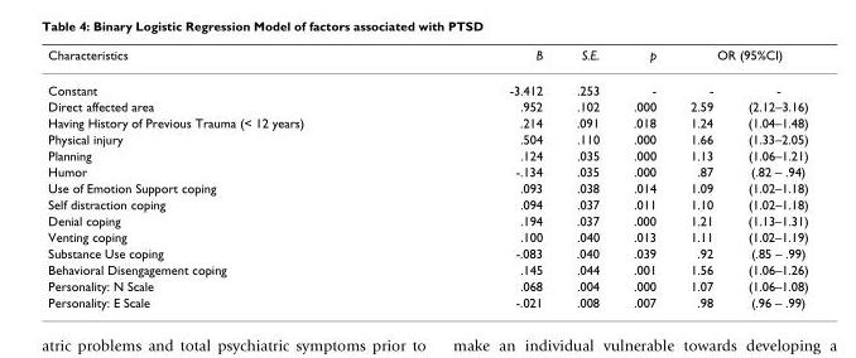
<table><thead><tr><td rowspan="2">Characteristics Constant</td><td rowspan="2">B -3.412</td><td rowspan="2">S.E. .253</td><td rowspan="2">p -</td><td colspan="2">OR (95%CI)</td></tr><tr><td>-</td><td>-</td></tr></thead><tbody><tr><td>Direct affected area</td><td>.952</td><td>.102</td><td>.000</td><td>2.59</td><td>(2.12–3.16)</td></tr><tr><td>Having History of Previous Trauma (&lt; 12 years)</td><td>.214</td><td>.091</td><td>.018</td><td>1.24</td><td>(1.04–1.48)</td></tr><tr><td>Physical injury</td><td>.504</td><td>.110</td><td>.000</td><td>1.66</td><td>(1.33–2.05)</td></tr><tr><td>Planning</td><td>.124</td><td>.035</td><td>.000</td><td>1.13</td><td>(1.06–1.21)</td></tr><tr><td>Humor</td><td>-.134</td><td>.035</td><td>.000</td><td>.87</td><td>(.82 – .94)</td></tr><tr><td>Use of Emotion Support coping</td><td>.093</td><td>.038</td><td>.014</td><td>1.09</td><td>(1.02–1.18)</td></tr><tr><td>Self distraction coping</td><td>.094</td><td>.037</td><td>.011</td><td>1.10</td><td>(1.02–1.18)</td></tr><tr><td>Denial coping</td><td>.194</td><td>.037</td><td>.000</td><td>1.21</td><td>(1.13–1.31)</td></tr><tr><td>Venting coping</td><td>.100</td><td>.040</td><td>.013</td><td>1.11</td><td>(1.02–1.19)</td></tr><tr><td>Substance Use coping</td><td>-.083</td><td>.040</td><td>.039</td><td>.92</td><td>(.85 – .99)</td></tr><tr><td>Behavioral Disengagement coping</td><td>.145</td><td>.044</td><td>.001</td><td>1.56</td><td>(1.06–1.26)</td></tr><tr><td>Personality: N Scale</td><td>.068</td><td>.004</td><td>.000</td><td>1.07</td><td>(1.06–1.08)</td></tr><tr><td>Personality: E Scale</td><td>-.021</td><td>.008</td><td>.007</td><td>.98</td><td>(.96 – .99)</td></tr></tbody></table>